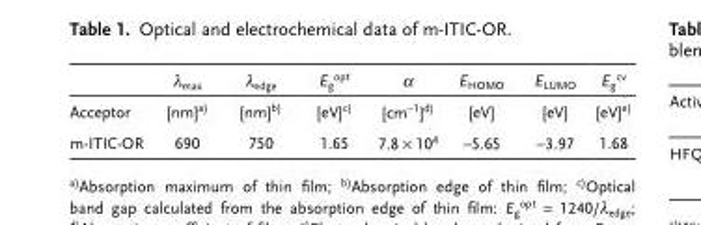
<table><thead><tr><td rowspan="2">Acceptor</td><td rowspan="2">λ<sub>max</sub> [nm]a)</td><td rowspan="2">λ<sub>edge</sub> [nm]b)</td><td rowspan="2">E<sub>g</sub><sup>opt</sup> [eV]c)</td><td rowspan="2">α [cm<sup>−1</sup>]d)</td><td rowspan="2">E<sub>HOMO</sub> [eV]</td><td rowspan="2">E<sub>LUMO</sub> [eV]</td><td rowspan="2">E<sub>g</sub><sup>cv</sup> [eV]e)</td></tr><tr></tr></thead><tbody><tr><td>m-ITIC-OR</td><td>690</td><td>750</td><td>1.65</td><td>7.8 × 10<sup>4</sup></td><td>−5.65</td><td>−3.97</td><td>1.68</td></tr></tbody></table>